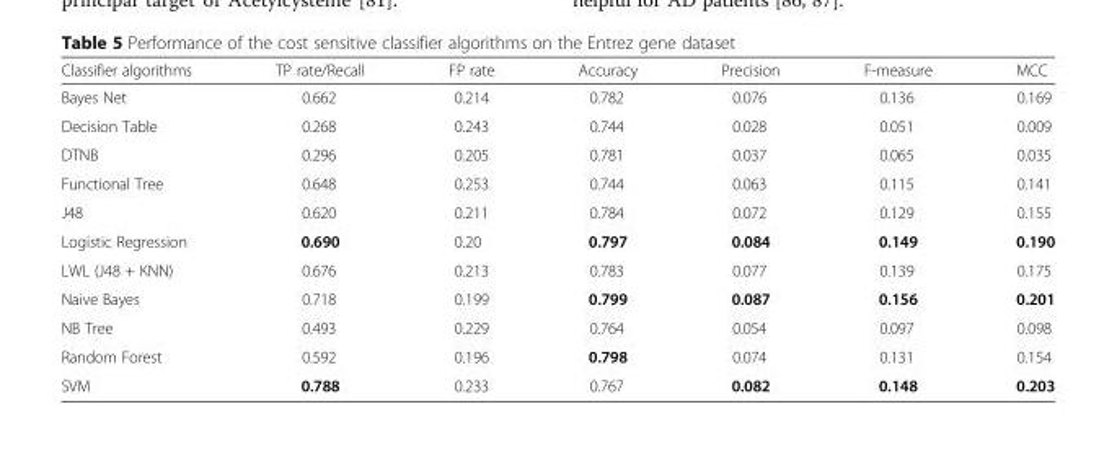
<table><thead><tr><td>Classifier algorithms</td><td>TP rate/Recall</td><td>FP rate</td><td>Accuracy</td><td>Precision</td><td>F-measure</td><td>MCC</td></tr></thead><tbody><tr><td>Bayes Net</td><td>0.662</td><td>0.214</td><td>0.782</td><td>0.076</td><td>0.136</td><td>0.169</td></tr><tr><td>Decision Table</td><td>0.268</td><td>0.243</td><td>0.744</td><td>0.028</td><td>0.051</td><td>0.009</td></tr><tr><td>DTNB</td><td>0.296</td><td>0.205</td><td>0.781</td><td>0.037</td><td>0.065</td><td>0.035</td></tr><tr><td>Functional Tree</td><td>0.648</td><td>0.253</td><td>0.744</td><td>0.063</td><td>0.115</td><td>0.141</td></tr><tr><td>J48</td><td>0.620</td><td>0.211</td><td>0.784</td><td>0.072</td><td>0.129</td><td>0.155</td></tr><tr><td>Logistic Regression</td><td>0.690</td><td>0.20</td><td>0.797</td><td>0.084</td><td>0.149</td><td>0.190</td></tr><tr><td>LWL (J48 + KNN)</td><td>0.676</td><td>0.213</td><td>0.783</td><td>0.077</td><td>0.139</td><td>0.175</td></tr><tr><td>Naive Bayes</td><td>0.718</td><td>0.199</td><td>0.799</td><td>0.087</td><td>0.156</td><td>0.201</td></tr><tr><td>NB Tree</td><td>0.493</td><td>0.229</td><td>0.764</td><td>0.054</td><td>0.097</td><td>0.098</td></tr><tr><td>Random Forest</td><td>0.592</td><td>0.196</td><td>0.798</td><td>0.074</td><td>0.131</td><td>0.154</td></tr><tr><td>SVM</td><td>0.788</td><td>0.233</td><td>0.767</td><td>0.082</td><td>0.148</td><td>0.203</td></tr></tbody></table>